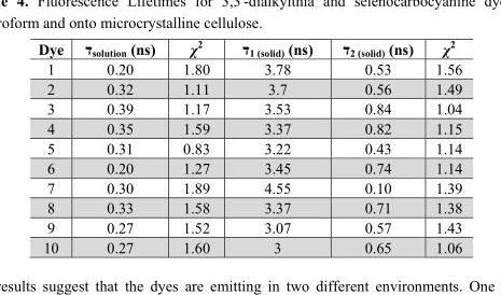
<table><thead><tr><td>Dye</td><td>דsolution (ns)</td><td>χ<sup>2</sup></td><td>ד1 (solid) (ns)</td><td>ד2 (solid) (ns)</td><td>χ<sup>2</sup></td></tr></thead><tbody><tr><td>1</td><td>0.20</td><td>1.80</td><td>3.78</td><td>0.53</td><td>1.56</td></tr><tr><td>2</td><td>0.32</td><td>1.11</td><td>3.7</td><td>0.56</td><td>1.49</td></tr><tr><td>3</td><td>0.39</td><td>1.17</td><td>3.53</td><td>0.84</td><td>1.04</td></tr><tr><td>4</td><td>0.35</td><td>1.59</td><td>3.37</td><td>0.82</td><td>1.15</td></tr><tr><td>5</td><td>0.31</td><td>0.83</td><td>3.22</td><td>0.43</td><td>1.14</td></tr><tr><td>6</td><td>0.20</td><td>1.27</td><td>3.45</td><td>0.74</td><td>1.14</td></tr><tr><td>7</td><td>0.30</td><td>1.89</td><td>4.55</td><td>0.10</td><td>1.39</td></tr><tr><td>8</td><td>0.33</td><td>1.58</td><td>3.37</td><td>0.71</td><td>1.38</td></tr><tr><td>9</td><td>0.27</td><td>1.52</td><td>3.07</td><td>0.57</td><td>1.43</td></tr><tr><td>10</td><td>0.27</td><td>1.60</td><td>3</td><td>0.65</td><td>1.06</td></tr></tbody></table>